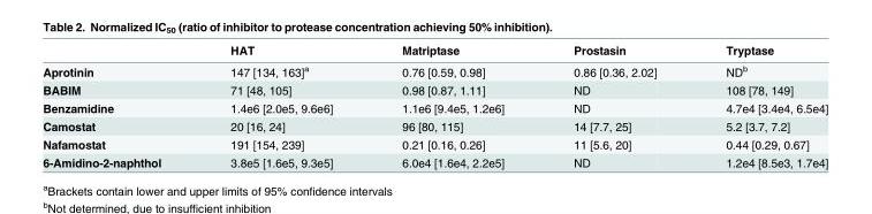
<table><thead><tr><td></td><td>HAT</td><td>Matriptase</td><td>Prostasin</td><td>Tryptase</td></tr></thead><tbody><tr><td>Aprotinin</td><td>147 [134, 163]<sup>a</sup></td><td>0.76 [0.59, 0.98]</td><td>0.86 [0.36, 2.02]</td><td>ND<sup>b</sup></td></tr><tr><td>BABIM</td><td>71 [48, 105]</td><td>0.98 [0.87, 1.11]</td><td>ND</td><td>108 [78, 149]</td></tr><tr><td>Benzamidine</td><td>1.4e6 [2.0e5, 9.6e6]</td><td>1.1e6 [9.4e5, 1.2e6]</td><td>ND</td><td>4.7e4 [3.4e4, 6.5e4]</td></tr><tr><td>Camostat</td><td>20 [16, 24]</td><td>96 [80, 115]</td><td>14 [7.7, 25]</td><td>5.2 [3.7, 7.2]</td></tr><tr><td>Nafamostat</td><td>191 [154, 239]</td><td>0.21 [0.16, 0.26]</td><td>11 [5.6, 20]</td><td>0.44 [0.29, 0.67]</td></tr><tr><td>6-Amidino-2-naphthol</td><td>3.8e5 [1.6e5, 9.3e5]</td><td>6.0e4 [1.6e4, 2.2e5]</td><td>ND</td><td>1.2e4 [8.5e3, 1.7e4]</td></tr></tbody></table>